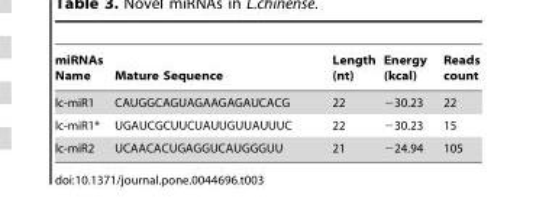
<table><thead><tr><td>miRNAs Name</td><td>Mature Sequence</td><td>Length (nt)</td><td>Energy (kcal)</td><td>Reads count</td></tr></thead><tbody><tr><td>lc-miR1</td><td>CAUGGCAGUAGAAGAGAUCACG</td><td>22</td><td>−30.23</td><td>22</td></tr><tr><td>lc-miR1*</td><td>UGAUCGCUUCUAUUGUUAUUUC</td><td>22</td><td>−30.23</td><td>15</td></tr><tr><td>lc-miR2</td><td>UCAACACUGAGGUCAUGGGUU</td><td>21</td><td>−24.94</td><td>105</td></tr></tbody></table>